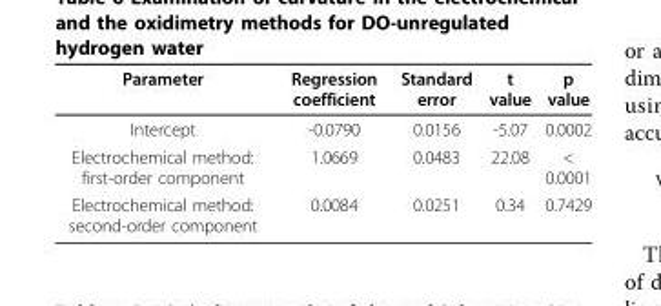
<table><thead><tr><td>Parameter</td><td>Regression coefficient</td><td>Standard error</td><td>t value</td><td>p value</td></tr></thead><tbody><tr><td>Intercept</td><td>-0.0790</td><td>0.0156</td><td>-5.07</td><td>0.0002</td></tr><tr><td>Electrochemical method: first-order component</td><td>1.0669</td><td>0.0483</td><td>22.08</td><td>&lt; 0.0001</td></tr><tr><td>Electrochemical method: second-order component</td><td>0.0084</td><td>0.0251</td><td>0.34</td><td>0.7429</td></tr></tbody></table>